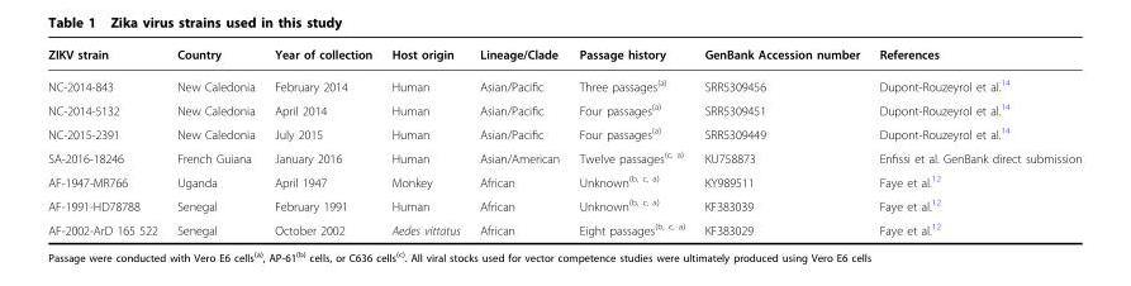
<table><thead><tr><td>ZIKV strain</td><td>Country</td><td>Year of collection</td><td>Host origin</td><td>Lineage/Clade</td><td>Passage history</td><td>GenBank Accession number</td><td>References</td></tr></thead><tbody><tr><td>NC-2014-843</td><td>New Caledonia</td><td>February 2014</td><td>Human</td><td>Asian/Pacific</td><td>Three passages<sup>(a)</sup></td><td>SRR5309456</td><td>Dupont-Rouzeyrol et al.<sup>14</sup></td></tr><tr><td>NC-2014-5132</td><td>New Caledonia</td><td>April 2014</td><td>Human</td><td>Asian/Pacific</td><td>Four passages<sup>(a)</sup></td><td>SRR5309451</td><td>Dupont-Rouzeyrol et al.<sup>14</sup></td></tr><tr><td>NC-2015-2391</td><td>New Caledonia</td><td>July 2015</td><td>Human</td><td>Asian/Pacific</td><td>Four passages<sup>(a)</sup></td><td>SRR5309449</td><td>Dupont-Rouzeyrol et al.<sup>14</sup></td></tr><tr><td>SA-2016-18246</td><td>French Guiana</td><td>January 2016</td><td>Human</td><td>Asian/American</td><td>Twelve passages<sup>(c, a)</sup></td><td>KU758873</td><td>Enfissi et al. GenBank direct submission</td></tr><tr><td>AF-1947-MR766</td><td>Uganda</td><td>April 1947</td><td>Monkey</td><td>African</td><td>Unknown<sup>(b, c, a)</sup></td><td>KY989511</td><td>Faye et al.<sup>12</sup></td></tr><tr><td>AF-1991-HD78788</td><td>Senegal</td><td>February 1991</td><td>Human</td><td>African</td><td>Unknown<sup>(b, c, a)</sup></td><td>KF383039</td><td>Faye et al.<sup>12</sup></td></tr><tr><td>AF-2002-ArD 165 522</td><td>Senegal</td><td>October 2002</td><td>Aedes vittatus</td><td>African</td><td>Eight passages<sup>(b, c, a)</sup></td><td>KF383029</td><td>Faye et al.<sup>12</sup></td></tr></tbody></table>